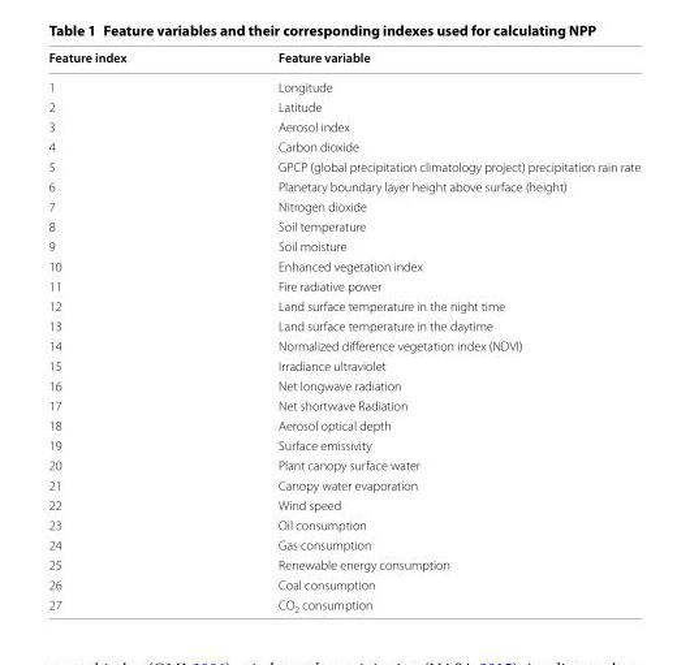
<table><thead><tr><td>Feature index</td><td>Feature variable</td></tr></thead><tbody><tr><td>1</td><td>Longitude</td></tr><tr><td>2</td><td>Latitude</td></tr><tr><td>3</td><td>Aerosol index</td></tr><tr><td>4</td><td>Carbon dioxide</td></tr><tr><td>5</td><td>GPCP (global precipitation climatology project) precipitation rain rate</td></tr><tr><td>6</td><td>Planetary boundary layer height above surface (height)</td></tr><tr><td>7</td><td>Nitrogen dioxide</td></tr><tr><td>8</td><td>Soil temperature</td></tr><tr><td>9</td><td>Soil moisture</td></tr><tr><td>10</td><td>Enhanced vegetation index</td></tr><tr><td>11</td><td>Fire radiative power</td></tr><tr><td>12</td><td>Land surface temperature in the night time</td></tr><tr><td>13</td><td>Land surface temperature in the daytime</td></tr><tr><td>14</td><td>Normalized difference vegetation index (NDVI)</td></tr><tr><td>15</td><td>Irradiance ultraviolet</td></tr><tr><td>16</td><td>Net longwave radiation</td></tr><tr><td>17</td><td>Net shortwave Radiation</td></tr><tr><td>18</td><td>Aerosol optical depth</td></tr><tr><td>19</td><td>Surface emissivity</td></tr><tr><td>20</td><td>Plant canopy surface water</td></tr><tr><td>21</td><td>Canopy water evaporation</td></tr><tr><td>22</td><td>Wind speed</td></tr><tr><td>23</td><td>Oil consumption</td></tr><tr><td>24</td><td>Gas consumption</td></tr><tr><td>25</td><td>Renewable energy consumption</td></tr><tr><td>26</td><td>Coal consumption</td></tr><tr><td>27</td><td>CO<sub>2</sub> consumption</td></tr></tbody></table>